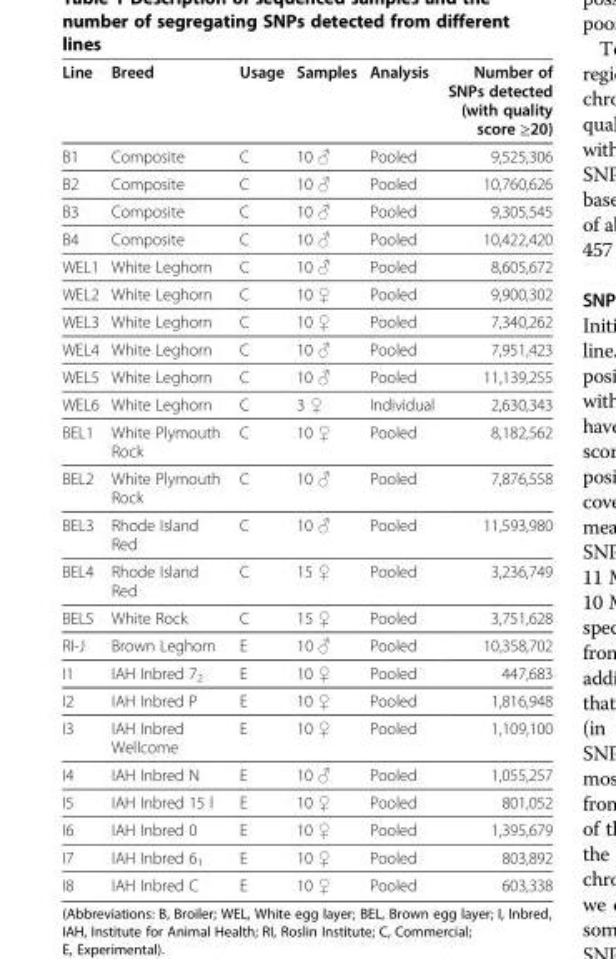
<table><thead><tr><td>Line</td><td>Breed</td><td>Usage</td><td>Samples</td><td>Analysis</td><td>Number of SNPs detected (with quality score ≥20)</td></tr></thead><tbody><tr><td>B1</td><td>Composite</td><td>C</td><td>10 ♂</td><td>Pooled</td><td>9,525,306</td></tr><tr><td>B2</td><td>Composite</td><td>C</td><td>10 ♂</td><td>Pooled</td><td>10,760,626</td></tr><tr><td>B3</td><td>Composite</td><td>C</td><td>10 ♂</td><td>Pooled</td><td>9,305,545</td></tr><tr><td>B4</td><td>Composite</td><td>C</td><td>10 ♂</td><td>Pooled</td><td>10,422,420</td></tr><tr><td>WEL1</td><td>White Leghorn</td><td>C</td><td>10 ♂</td><td>Pooled</td><td>8,605,672</td></tr><tr><td>WEL2</td><td>White Leghorn</td><td>C</td><td>10 ♀</td><td>Pooled</td><td>9,900,302</td></tr><tr><td>WEL3</td><td>White Leghorn</td><td>C</td><td>10 ♀</td><td>Pooled</td><td>7,340,262</td></tr><tr><td>WEL4</td><td>White Leghorn</td><td>C</td><td>10 ♂</td><td>Pooled</td><td>7,951,423</td></tr><tr><td>WEL5</td><td>White Leghorn</td><td>C</td><td>10 ♂</td><td>Pooled</td><td>11,139,255</td></tr><tr><td>WEL6</td><td>White Leghorn</td><td>C</td><td>3 ♀</td><td>Individual</td><td>2,630,343</td></tr><tr><td>BEL1</td><td>White Plymouth Rock</td><td>C</td><td>10 ♀</td><td>Pooled</td><td>8,182,562</td></tr><tr><td>BEL2</td><td>White Plymouth Rock</td><td>C</td><td>10 ♂</td><td>Pooled</td><td>7,876,558</td></tr><tr><td>BEL3</td><td>Rhode Island Red</td><td>C</td><td>10 ♂</td><td>Pooled</td><td>11,593,980</td></tr><tr><td>BEL4</td><td>Rhode Island Red</td><td>C</td><td>15 ♀</td><td>Pooled</td><td>3,236,749</td></tr><tr><td>BEL5</td><td>White Rock</td><td>C</td><td>15 ♀</td><td>Pooled</td><td>3,751,628</td></tr><tr><td>RI-J</td><td>Brown Leghorn</td><td>E</td><td>10 ♂</td><td>Pooled</td><td>10,358,702</td></tr><tr><td>I1</td><td>IAH Inbred 7<sub>2</sub></td><td>E</td><td>10 ♀</td><td>Pooled</td><td>447,683</td></tr><tr><td>I2</td><td>IAH Inbred P</td><td>E</td><td>10 ♀</td><td>Pooled</td><td>1,816,948</td></tr><tr><td>I3</td><td>IAH Inbred Wellcome</td><td>E</td><td>10 ♀</td><td>Pooled</td><td>1,109,100</td></tr><tr><td>I4</td><td>IAH Inbred N</td><td>E</td><td>10 ♂</td><td>Pooled</td><td>1,055,257</td></tr><tr><td>I5</td><td>IAH Inbred 15 l</td><td>E</td><td>10 ♀</td><td>Pooled</td><td>801,052</td></tr><tr><td>I6</td><td>IAH Inbred 0</td><td>E</td><td>10 ♀</td><td>Pooled</td><td>1,395,679</td></tr><tr><td>I7</td><td>IAH Inbred 6<sub>1</sub></td><td>E</td><td>10 ♀</td><td>Pooled</td><td>803,892</td></tr><tr><td>I8</td><td>IAH Inbred C</td><td>E</td><td>10 ♀</td><td>Pooled</td><td>603,338</td></tr></tbody></table>